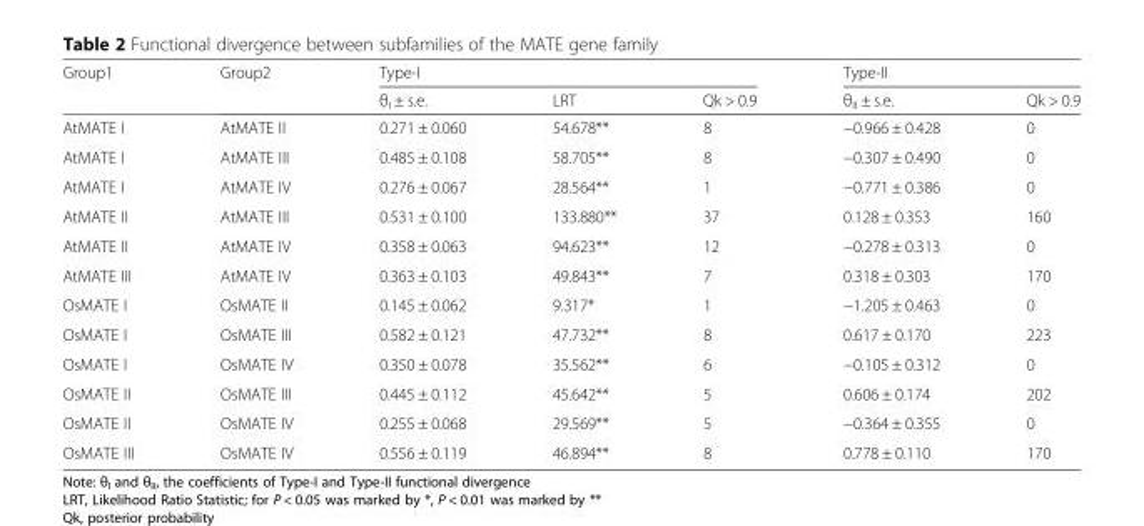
<table><thead><tr><td rowspan="2">Group1</td><td rowspan="2">Group2</td><td colspan="3">Type-I</td><td colspan="2">Type-II</td></tr><tr><td>θ<sub>I</sub> ± s.e.</td><td>LRT</td><td>Qk &gt; 0.9</td><td>θ<sub>II</sub> ± s.e.</td><td>Qk &gt; 0.9</td></tr></thead><tbody><tr><td>AtMATE I</td><td>AtMATE II</td><td>0.271 ± 0.060</td><td>54.678**</td><td>8</td><td>−0.966 ± 0.428</td><td>0</td></tr><tr><td>AtMATE I</td><td>AtMATE III</td><td>0.485 ± 0.108</td><td>58.705**</td><td>8</td><td>−0.307 ± 0.490</td><td>0</td></tr><tr><td>AtMATE I</td><td>AtMATE IV</td><td>0.276 ± 0.067</td><td>28.564**</td><td>1</td><td>−0.771 ± 0.386</td><td>0</td></tr><tr><td>AtMATE II</td><td>AtMATE III</td><td>0.531 ± 0.100</td><td>133.880**</td><td>37</td><td>0.128 ± 0.353</td><td>160</td></tr><tr><td>AtMATE II</td><td>AtMATE IV</td><td>0.358 ± 0.063</td><td>94.623**</td><td>12</td><td>−0.278 ± 0.313</td><td>0</td></tr><tr><td>AtMATE III</td><td>AtMATE IV</td><td>0.363 ± 0.103</td><td>49.843**</td><td>7</td><td>0.318 ± 0.303</td><td>170</td></tr><tr><td>OsMATE I</td><td>OsMATE II</td><td>0.145 ± 0.062</td><td>9.317*</td><td>1</td><td>−1.205 ± 0.463</td><td>0</td></tr><tr><td>OsMATE I</td><td>OsMATE III</td><td>0.582 ± 0.121</td><td>47.732**</td><td>8</td><td>0.617 ± 0.170</td><td>223</td></tr><tr><td>OsMATE I</td><td>OsMATE IV</td><td>0.350 ± 0.078</td><td>35.562**</td><td>6</td><td>−0.105 ± 0.312</td><td>0</td></tr><tr><td>OsMATE II</td><td>OsMATE III</td><td>0.445 ± 0.112</td><td>45.642**</td><td>5</td><td>0.606 ± 0.174</td><td>202</td></tr><tr><td>OsMATE II</td><td>OsMATE IV</td><td>0.255 ± 0.068</td><td>29.569**</td><td>5</td><td>−0.364 ± 0.355</td><td>0</td></tr><tr><td>OsMATE III</td><td>OsMATE IV</td><td>0.556 ± 0.119</td><td>46.894**</td><td>8</td><td>0.778 ± 0.110</td><td>170</td></tr></tbody></table>